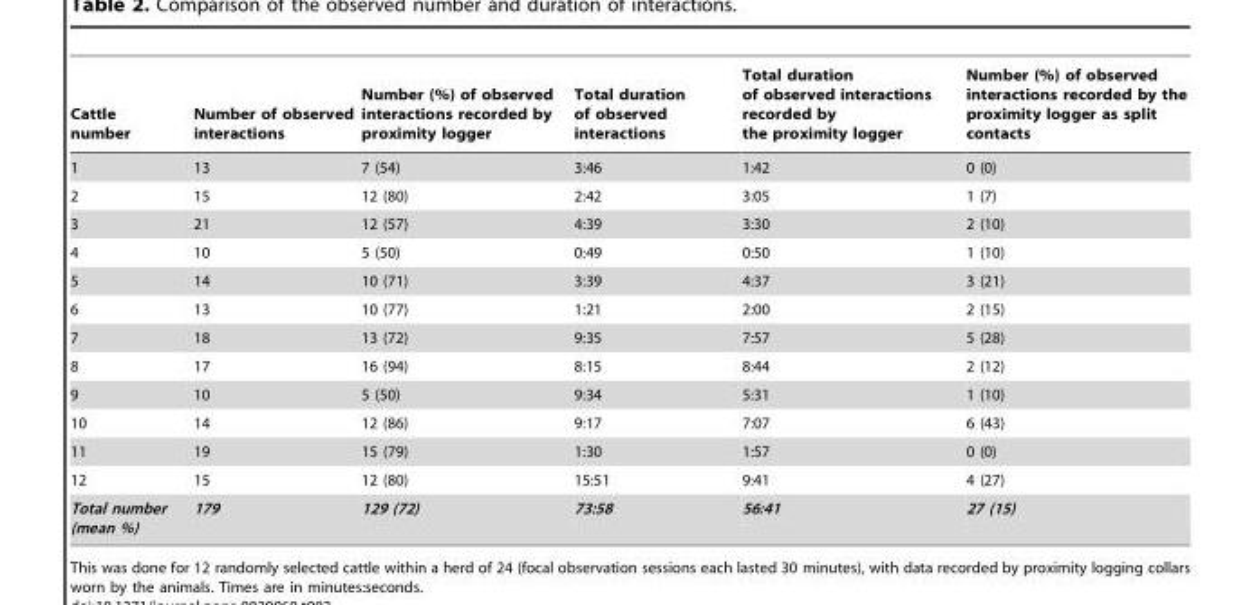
<table><thead><tr><td>Cattle number</td><td>Number of observed interactions</td><td>Number (%) of observed interactions recorded by proximity logger</td><td>Total duration of observed interactions</td><td>Total duration of observed interactions recorded by the proximity logger</td><td>Number (%) of observed interactions recorded by the proximity logger as split contacts</td></tr></thead><tbody><tr><td>1</td><td>13</td><td>7 (54)</td><td>3:46</td><td>1:42</td><td>0 (0)</td></tr><tr><td>2</td><td>15</td><td>12 (80)</td><td>2:42</td><td>3:05</td><td>1 (7)</td></tr><tr><td>3</td><td>21</td><td>12 (57)</td><td>4:39</td><td>3:30</td><td>2 (10)</td></tr><tr><td>4</td><td>10</td><td>5 (50)</td><td>0:49</td><td>0:50</td><td>1 (10)</td></tr><tr><td>5</td><td>14</td><td>10 (71)</td><td>3:39</td><td>4:37</td><td>3 (21)</td></tr><tr><td>6</td><td>13</td><td>10 (77)</td><td>1:21</td><td>2:00</td><td>2 (15)</td></tr><tr><td>7</td><td>18</td><td>13 (72)</td><td>9:35</td><td>7:57</td><td>5 (28)</td></tr><tr><td>8</td><td>17</td><td>16 (94)</td><td>8:15</td><td>8:44</td><td>2 (12)</td></tr><tr><td>9</td><td>10</td><td>5 (50)</td><td>9:34</td><td>5:31</td><td>1 (10)</td></tr><tr><td>10</td><td>14</td><td>12 (86)</td><td>9:17</td><td>7:07</td><td>6 (43)</td></tr><tr><td>11</td><td>19</td><td>15 (79)</td><td>1:30</td><td>1:57</td><td>0 (0)</td></tr><tr><td>12</td><td>15</td><td>12 (80)</td><td>15:51</td><td>9:41</td><td>4 (27)</td></tr><tr><td>Total number (mean %)</td><td>179</td><td>129 (72)</td><td>73:58</td><td>56:41</td><td>27 (15)</td></tr></tbody></table>